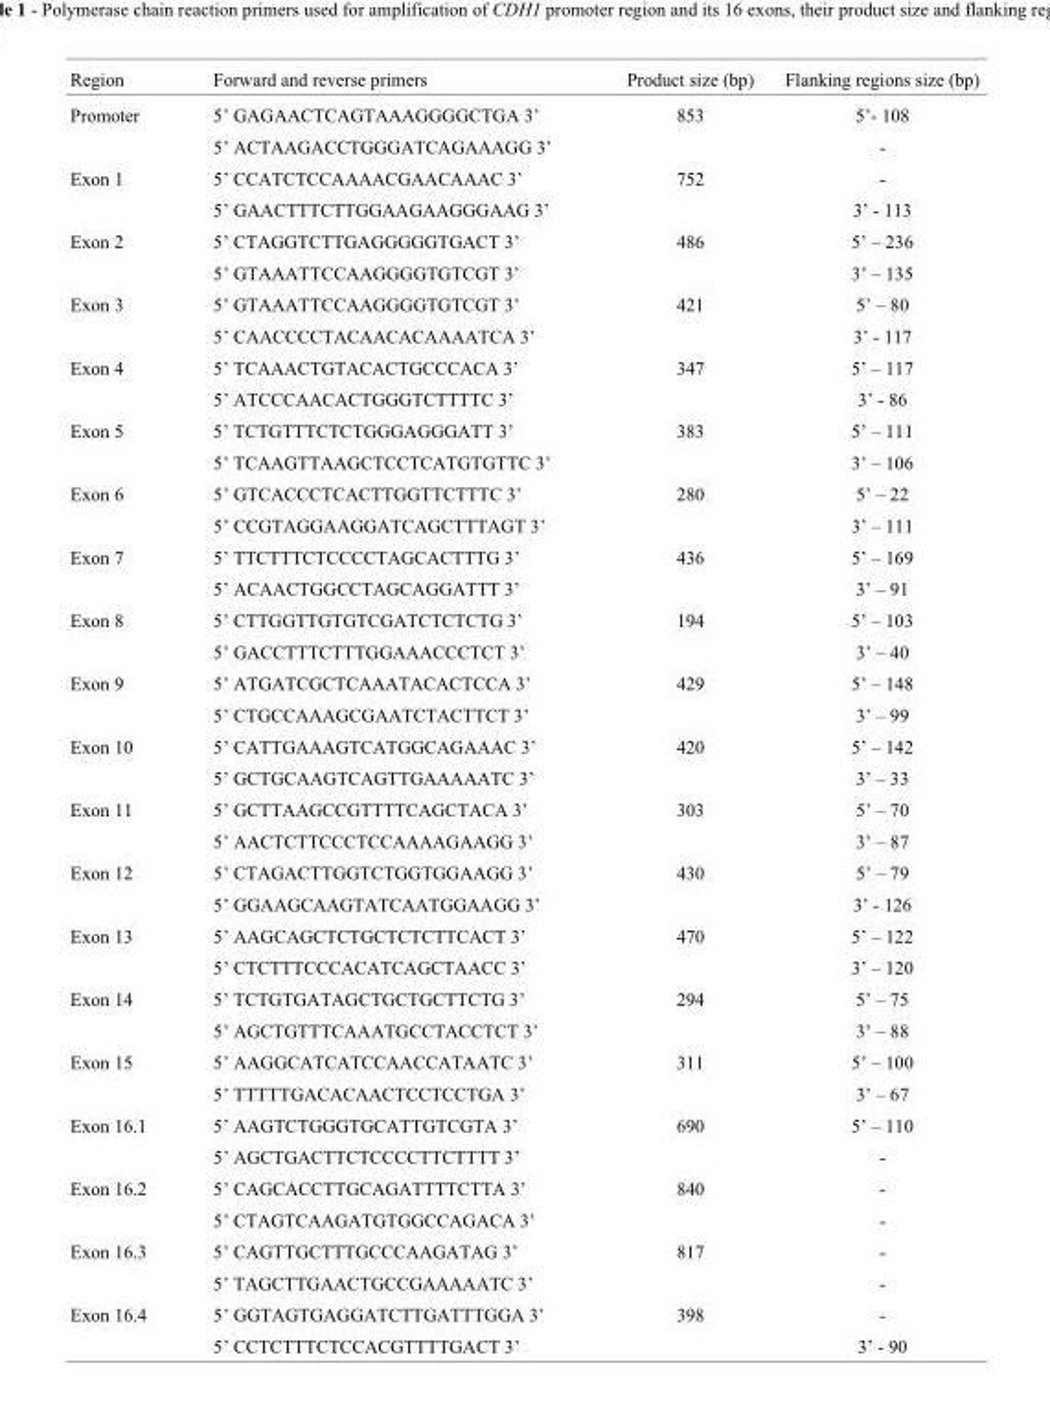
<table><thead><tr><td>Region</td><td>Forward and reverse primers</td><td>Product size (bp)</td><td>Flanking regions size (bp)</td></tr></thead><tbody><tr><td rowspan="2">Promoter</td><td>5’ GAGAACTCAGTAAAGGGGCTGA 3’</td><td>853</td><td>5’- 108</td></tr><tr><td>5’ ACTAAGACCTGGGATCAGAAAGG 3’</td><td></td><td>-</td></tr><tr><td rowspan="2">Exon 1</td><td>5’ CCATCTCCAAAACGAACAAAC 3’</td><td>752</td><td>-</td></tr><tr><td>5’ GAACTTTCTTGGAAGAAGGGAAG 3’</td><td></td><td>3’ - 113</td></tr><tr><td rowspan="2">Exon 2</td><td>5’ CTAGGTCTTGAGGGGGTGACT 3’</td><td>486</td><td>5’ – 236</td></tr><tr><td>5’ GTAAATTCCAAGGGGTGTCGT 3’</td><td></td><td>3’ – 135</td></tr><tr><td rowspan="2">Exon 3</td><td>5’ GTAAATTCCAAGGGGTGTCGT 3’</td><td>421</td><td>5’ – 80</td></tr><tr><td>5’ CAACCCCTACAACACAAAATCA 3’</td><td></td><td>3’ - 117</td></tr><tr><td rowspan="2">Exon 4</td><td>5’ TCAAACTGTACACTGCCCACA 3’</td><td>347</td><td>5’ – 117</td></tr><tr><td>5’ ATCCCAACACTGGGTCTTTTC 3’</td><td></td><td>3’ - 86</td></tr><tr><td rowspan="2">Exon 5</td><td>5’ TCTGTTTCTCTGGGAGGGATT 3’</td><td>383</td><td>5’ – 111</td></tr><tr><td>5’ TCAAGTTAAGCTCCTCATGTGTTC 3’</td><td></td><td>3’ – 106</td></tr><tr><td rowspan="2">Exon 6</td><td>5’ GTCACCCTCACTTGGTTCTTTC 3’</td><td>280</td><td>5’ – 22</td></tr><tr><td>5’ CCGTAGGAAGGATCAGCTTTAGT 3’</td><td></td><td>3’ – 111</td></tr><tr><td rowspan="2">Exon 7</td><td>5’ TTCTTTCTCCCCTAGCACTTTG 3’</td><td>436</td><td>5’ – 169</td></tr><tr><td>5’ ACAACTGGCCTAGCAGGATTT 3’</td><td></td><td>3’ – 91</td></tr><tr><td rowspan="2">Exon 8</td><td>5’ CTTGGTTGTGTCGATCTCTCTG 3’</td><td>194</td><td>5’ – 103</td></tr><tr><td>5’ GACCTTTCTTTGGAAACCCTCT 3’</td><td></td><td>3’ – 40</td></tr><tr><td rowspan="2">Exon 9</td><td>5’ ATGATCGCTCAAATACACTCCA 3’</td><td>429</td><td>5’ – 148</td></tr><tr><td>5’ CTGCCAAAGCGAATCTACTTCT 3’</td><td></td><td>3’ – 99</td></tr><tr><td rowspan="2">Exon 10</td><td>5’ CATTGAAAGTCATGGCAGAAAC 3’</td><td>420</td><td>5’ – 142</td></tr><tr><td>5’ GCTGCAAGTCAGTTGAAAAATC 3’</td><td></td><td>3’ – 33</td></tr><tr><td rowspan="2">Exon 11</td><td>5’ GCTTAAGCCGTTTTCAGCTACA 3’</td><td>303</td><td>5’ – 70</td></tr><tr><td>5’ AACTCTTCCCTCCAAAAGAAGG 3’</td><td></td><td>3’ – 87</td></tr><tr><td rowspan="2">Exon 12</td><td>5’ CTAGACTTGGTCTGGTGGAAGG 3’</td><td>430</td><td>5’ – 79</td></tr><tr><td>5’ GGAAGCAAGTATCAATGGAAGG 3’</td><td></td><td>3’ - 126</td></tr><tr><td rowspan="2">Exon 13</td><td>5’ AAGCAGCTCTGCTCTCTTCACT 3’</td><td>470</td><td>5’ – 122</td></tr><tr><td>5’ CTCTTTCCCACATCAGCTAACC 3’</td><td></td><td>3’ – 120</td></tr><tr><td rowspan="2">Exon 14</td><td>5’ TCTGTGATAGCTGCTGCTTCTG 3’</td><td>294</td><td>5’ – 75</td></tr><tr><td>5’ AGCTGTTTCAAATGCCTACCTCT 3’</td><td></td><td>3’ – 88</td></tr><tr><td rowspan="2">Exon 15</td><td>5’ AAGGCATCATCCAACCATAATC 3’</td><td>311</td><td>5’ – 100</td></tr><tr><td>5’ TTTTTGACACAACTCCTCCTGA 3’</td><td></td><td>3’ – 67</td></tr><tr><td rowspan="2">Exon 16.1</td><td>5’ AAGTCTGGGTGCATTGTCGTA 3’</td><td>690</td><td>5’ – 110</td></tr><tr><td>5’ AGCTGACTTCTCCCCTTCTTTT 3’</td><td></td><td>-</td></tr><tr><td rowspan="2">Exon 16.2</td><td>5’ CAGCACCTTGCAGATTTTCTTA 3’</td><td>840</td><td>-</td></tr><tr><td>5’ CTAGTCAAGATGTGGCCAGACA 3’</td><td></td><td>-</td></tr><tr><td rowspan="2">Exon 16.3</td><td>5’ CAGTTGCTTTGCCCAAGATAG 3’</td><td>817</td><td>-</td></tr><tr><td>5’ TAGCTTGAACTGCCGAAAAATC 3’</td><td></td><td>-</td></tr><tr><td rowspan="2">Exon 16.4</td><td>5’ GGTAGTGAGGATCTTGATTTGGA 3’</td><td>398</td><td>-</td></tr><tr><td>5’ CCTCTTTCTCCACGTTTTGACT 3’</td><td></td><td>3’ - 90</td></tr></tbody></table>